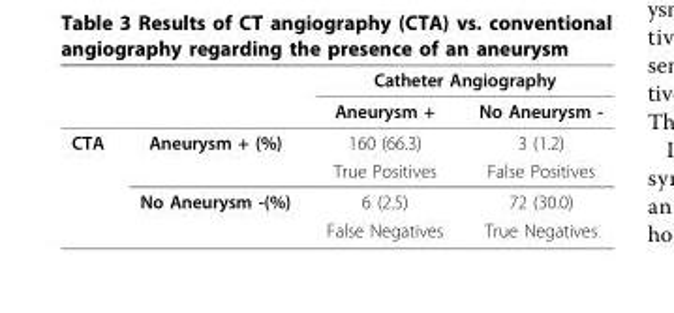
<table><thead><tr><td rowspan="2"></td><td rowspan="2"></td><td colspan="2">Catheter Angiography</td></tr><tr><td>Aneurysm +</td><td>No Aneurysm -</td></tr></thead><tbody><tr><td rowspan="4">CTA</td><td>Aneurysm + (%)</td><td>160 (66.3)</td><td>3 (1.2)</td></tr><tr><td></td><td>True Positives</td><td>False Positives</td></tr><tr><td>No Aneurysm -(%)</td><td>6 (2.5)</td><td>72 (30.0)</td></tr><tr><td></td><td>False Negatives</td><td>True Negatives</td></tr></tbody></table>